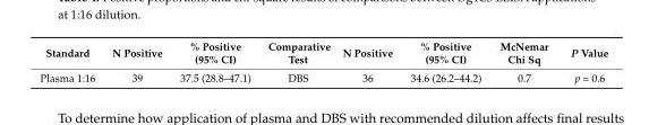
<table><thead><tr><td>Standard</td><td>N Positive</td><td>% Positive (95% CI)</td><td>Comparative Test</td><td>N Positive</td><td>% Positive (95% CI)</td><td>McNemar Chi Sq</td><td>P Value</td></tr></thead><tbody><tr><td>Plasma 1:16</td><td>39</td><td>37.5 (28.8–47.1)</td><td>DBS</td><td>36</td><td>34.6 (26.2–44.2)</td><td>0.7</td><td>p = 0.6</td></tr></tbody></table>